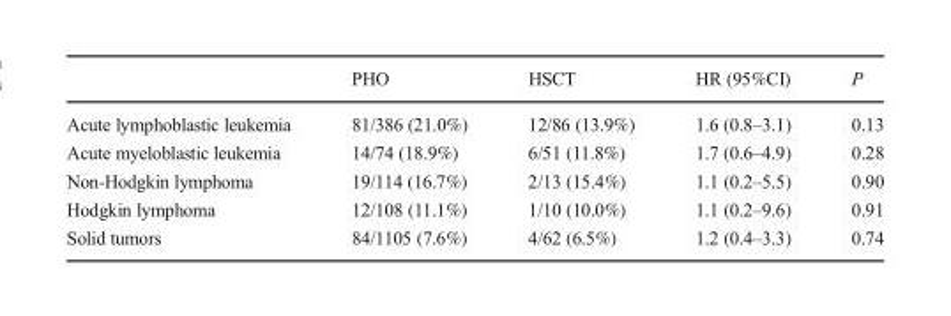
<table><thead><tr><td></td><td>PHO</td><td>HSCT</td><td>HR (95%CI)</td><td>P</td></tr></thead><tbody><tr><td>Acute lymphoblastic leukemia</td><td>81/386 (21.0%)</td><td>12/86 (13.9%)</td><td>1.6 (0.8–3.1)</td><td>0.13</td></tr><tr><td>Acute myeloblastic leukemia</td><td>14/74 (18.9%)</td><td>6/51 (11.8%)</td><td>1.7 (0.6–4.9)</td><td>0.28</td></tr><tr><td>Non-Hodgkin lymphoma</td><td>19/114 (16.7%)</td><td>2/13 (15.4%)</td><td>1.1 (0.2–5.5)</td><td>0.90</td></tr><tr><td>Hodgkin lymphoma</td><td>12/108 (11.1%)</td><td>1/10 (10.0%)</td><td>1.1 (0.2–9.6)</td><td>0.91</td></tr><tr><td>Solid tumors</td><td>84/1105 (7.6%)</td><td>4/62 (6.5%)</td><td>1.2 (0.4–3.3)</td><td>0.74</td></tr></tbody></table>